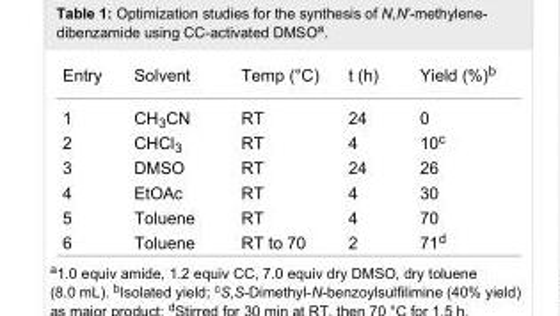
<table><tbody><tr><td>Entry</td><td>Solvent</td><td>Temp (°C)</td><td>t (h)</td><td>Yield (%)<sup>b</sup></td></tr><tr><td>1</td><td>CH<sub>3</sub>CN</td><td>RT</td><td>24</td><td>0</td></tr><tr><td>2</td><td>CHCl<sub>3</sub></td><td>RT</td><td>4</td><td>10<sup>c</sup></td></tr><tr><td>3</td><td>DMSO</td><td>RT</td><td>24</td><td>26</td></tr><tr><td>4</td><td>EtOAc</td><td>RT</td><td>4</td><td>30</td></tr><tr><td>5</td><td>Toluene</td><td>RT</td><td>4</td><td>70</td></tr><tr><td>6</td><td>Toluene</td><td>RT to 70</td><td>2</td><td>71<sup>d</sup></td></tr></tbody></table>